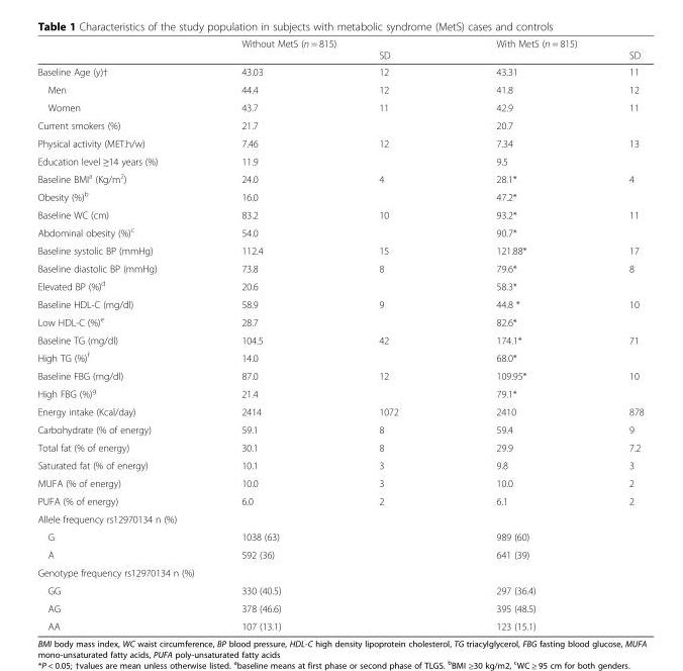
<table><thead><tr><td rowspan="2"></td><td colspan="2">Without MetS (n = 815)</td><td colspan="2">With MetS (n = 815)</td></tr><tr><td></td><td>SD</td><td></td><td>SD</td></tr></thead><tbody><tr><td>Baseline Age (y)†</td><td>43.03</td><td>12</td><td>43.31</td><td>11</td></tr><tr><td>Men</td><td>44.4</td><td>12</td><td>41.8</td><td>12</td></tr><tr><td>Women</td><td>43.7</td><td>11</td><td>42.9</td><td>11</td></tr><tr><td>Current smokers (%)</td><td>21.7</td><td></td><td>20.7</td><td></td></tr><tr><td>Physical activity (MET.h/w)</td><td>7.46</td><td>12</td><td>7.34</td><td>13</td></tr><tr><td>Education level ≥14 years (%)</td><td>11.9</td><td></td><td>9.5</td><td></td></tr><tr><td>Baseline BMI<sup>a</sup> (Kg/m<sup>2</sup>)</td><td>24.0</td><td>4</td><td>28.1*</td><td>4</td></tr><tr><td>Obesity (%)<sup>b</sup></td><td>16.0</td><td></td><td>47.2*</td><td></td></tr><tr><td>Baseline WC (cm)</td><td>83.2</td><td>10</td><td>93.2*</td><td>11</td></tr><tr><td>Abdominal obesity (%)<sup>c</sup></td><td>54.0</td><td></td><td>90.7*</td><td></td></tr><tr><td>Baseline systolic BP (mmHg)</td><td>112.4</td><td>15</td><td>121.88*</td><td>17</td></tr><tr><td>Baseline diastolic BP (mmHg)</td><td>73.8</td><td>8</td><td>79.6*</td><td>8</td></tr><tr><td>Elevated BP (%)<sup>d</sup></td><td>20.6</td><td></td><td>58.3*</td><td></td></tr><tr><td>Baseline HDL-C (mg/dl)</td><td>58.9</td><td>9</td><td>44.8 *</td><td>10</td></tr><tr><td>Low HDL-C (%)<sup>e</sup></td><td>28.7</td><td></td><td>82.6*</td><td></td></tr><tr><td>Baseline TG (mg/dl)</td><td>104.5</td><td>42</td><td>174.1*</td><td>71</td></tr><tr><td>High TG (%)<sup>f</sup></td><td>14.0</td><td></td><td>68.0*</td><td></td></tr><tr><td>Baseline FBG (mg/dl)</td><td>87.0</td><td>12</td><td>109.95*</td><td>10</td></tr><tr><td>High FBG (%)<sup>g</sup></td><td>21.4</td><td></td><td>79.1*</td><td></td></tr><tr><td>Energy intake (Kcal/day)</td><td>2414</td><td>1072</td><td>2410</td><td>878</td></tr><tr><td>Carbohydrate (% of energy)</td><td>59.1</td><td>8</td><td>59.4</td><td>9</td></tr><tr><td>Total fat (% of energy)</td><td>30.1</td><td>8</td><td>29.9</td><td>7.2</td></tr><tr><td>Saturated fat (% of energy)</td><td>10.1</td><td>3</td><td>9.8</td><td>3</td></tr><tr><td>MUFA (% of energy)</td><td>10.0</td><td>3</td><td>10.0</td><td>2</td></tr><tr><td>PUFA (% of energy)</td><td>6.0</td><td>2</td><td>6.1</td><td>2</td></tr><tr><td colspan="5">Allele frequency rs12970134 n (%)</td></tr><tr><td>G</td><td>1038 (63)</td><td></td><td>989 (60)</td><td></td></tr><tr><td>A</td><td>592 (36)</td><td></td><td>641 (39)</td><td></td></tr><tr><td colspan="5">Genotype frequency rs12970134 n (%)</td></tr><tr><td>GG</td><td>330 (40.5)</td><td></td><td>297 (36.4)</td><td></td></tr><tr><td>AG</td><td>378 (46.6)</td><td></td><td>395 (48.5)</td><td></td></tr><tr><td>AA</td><td>107 (13.1)</td><td></td><td>123 (15.1)</td><td></td></tr></tbody></table>